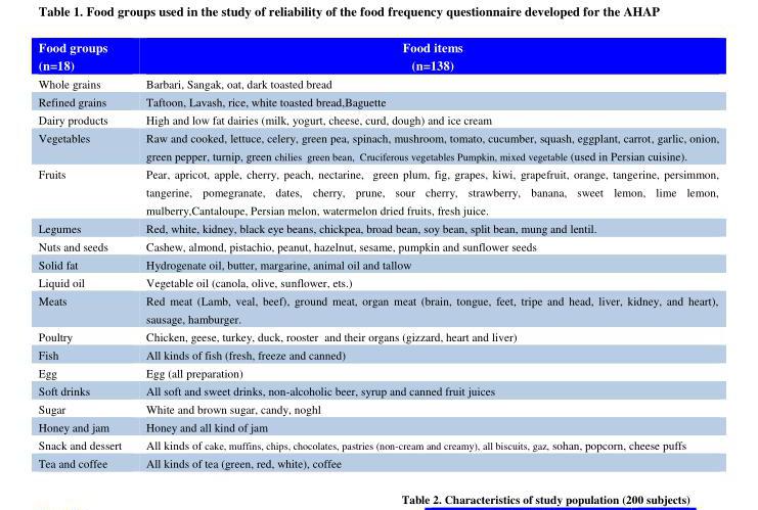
<table><thead><tr><td>Food groups (n=18)</td><td>Food items (n=138)</td></tr></thead><tbody><tr><td>Whole grains</td><td>Barbari, Sangak, oat, dark toasted bread</td></tr><tr><td>Refined grains</td><td>Taftoon, Lavash, rice, white toasted bread,Baguette</td></tr><tr><td>Dairy products</td><td>High and low fat dairies (milk, yogurt, cheese, curd, dough) and ice cream</td></tr><tr><td>Vegetables</td><td>Raw and cooked, lettuce, celery, green pea, spinach, mushroom, tomato, cucumber, squash, eggplant, carrot, garlic, onion, green pepper, turnip, green chilies green bean, Cruciferous vegetables Pumpkin, mixed vegetable (used in Persian cuisine).</td></tr><tr><td>Fruits</td><td>Pear, apricot, apple, cherry, peach, nectarine, green plum, fig, grapes, kiwi, grapefruit, orange, tangerine, persimmon, tangerine, pomegranate, dates, cherry, prune, sour cherry, strawberry, banana, sweet lemon, lime lemon, mulberry,Cantaloupe, Persian melon, watermelon dried fruits, fresh juice.</td></tr><tr><td>Legumes</td><td>Red, white, kidney, black eye beans, chickpea, broad bean, soy bean, split bean, mung and lentil.</td></tr><tr><td>Nuts and seeds</td><td>Cashew, almond, pistachio, peanut, hazelnut, sesame, pumpkin and sunflower seeds</td></tr><tr><td>Solid fat</td><td>Hydrogenate oil, butter, margarine, animal oil and tallow</td></tr><tr><td>Liquid oil</td><td>Vegetable oil (canola, olive, sunflower, ets.)</td></tr><tr><td>Meats</td><td>Red meat (Lamb, veal, beef), ground meat, organ meat (brain, tongue, feet, tripe and head, liver, kidney, and heart), sausage, hamburger.</td></tr><tr><td>Poultry</td><td>Chicken, geese, turkey, duck, rooster and their organs (gizzard, heart and liver)</td></tr><tr><td>Fish</td><td>All kinds of fish (fresh, freeze and canned)</td></tr><tr><td>Egg</td><td>Egg (all preparation)</td></tr><tr><td>Soft drinks</td><td>All soft and sweet drinks, non-alcoholic beer, syrup and canned fruit juices</td></tr><tr><td>Sugar</td><td>White and brown sugar, candy, noghl</td></tr><tr><td>Honey and jam</td><td>Honey and all kind of jam</td></tr><tr><td>Snack and dessert</td><td>All kinds of cake, muffins, chips, chocolates, pastries (non-cream and creamy), all biscuits, gaz, sohan, popcorn, cheese puffs</td></tr><tr><td>Tea and coffee</td><td>All kinds of tea (green, red, white), coffee</td></tr></tbody></table>